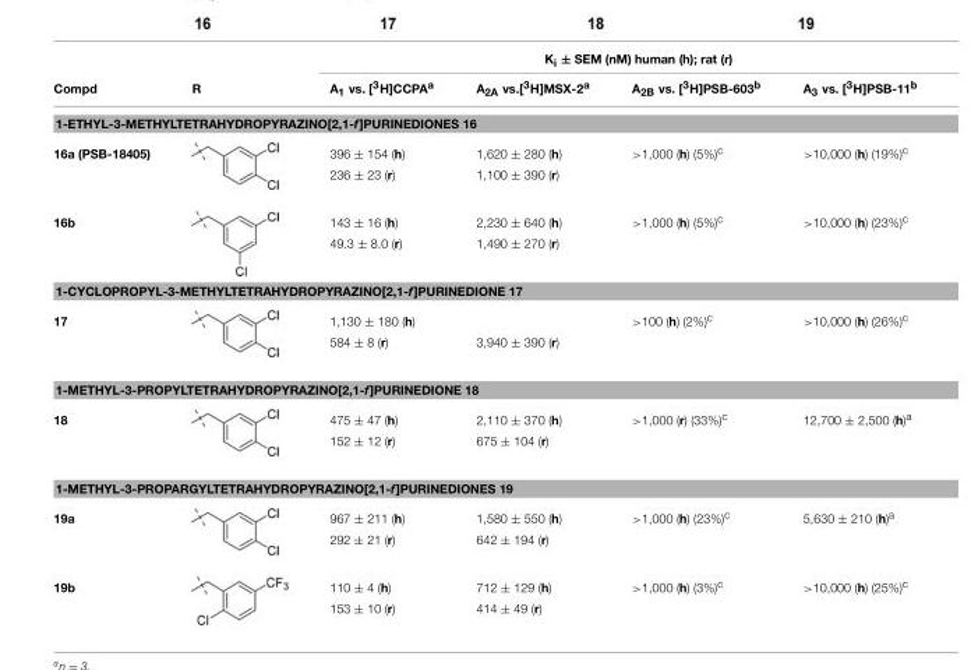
<table><thead><tr><td rowspan="2">Compd</td><td rowspan="2">R</td><td colspan="4">K<sub>i</sub> ± SEM (nM) human (h); rat (r)</td></tr><tr><td>A<sub>1</sub> vs. [<sup>3</sup>H]CCPA<sup>a</sup></td><td>A<sub>2A</sub> vs.[<sup>3</sup>H]MSX-2<sup>a</sup></td><td>A<sub>2B</sub> vs. [<sup>3</sup>H]PSB-603<sup>b</sup></td><td>A<sub>3</sub> vs. [<sup>3</sup>H]PSB-11<sup>b</sup></td></tr></thead><tbody><tr><td colspan="6">1-ETHYL-3-METHYLTETRAHYDROPYRAZINO[2,1-f]PURINEDIONES 16</td></tr><tr><td rowspan="2">16a (PSB-18405)</td><td></td><td>396 ± 154 (h)</td><td>1,620 ± 280 (h)</td><td>&gt;1,000 (h) (5%)<sup>c</sup></td><td>&gt;10,000 (h) (19%)<sup>c</sup></td></tr><tr><td></td><td>236 ± 23 (r)</td><td>1,100 ± 390 (r)</td><td></td><td></td></tr><tr><td rowspan="2">16b</td><td></td><td>143 ± 16 (h)</td><td>2,230 ± 640 (h)</td><td>&gt;1,000 (h) (5%)<sup>c</sup></td><td>&gt;10,000 (h) (23%)<sup>c</sup></td></tr><tr><td></td><td>49.3 ± 8.0 (r)</td><td>1,490 ± 270 (r)</td><td></td><td></td></tr><tr><td colspan="6">1-CYCLOPROPYL-3-METHYLTETRAHYDROPYRAZINO[2,1-f]PURINEDIONE 17</td></tr><tr><td rowspan="2">17</td><td></td><td>1,130 ± 180 (h)</td><td></td><td>&gt;100 (h) (2%)<sup>c</sup></td><td>&gt;10,000 (h) (26%)<sup>c</sup></td></tr><tr><td></td><td>584 ± 8 (r)</td><td>3,940 ± 390 (r)</td><td></td><td></td></tr><tr><td colspan="6">1-METHYL-3-PROPYLTETRAHYDROPYRAZINO[2,1-f]PURINEDIONE 18</td></tr><tr><td rowspan="2">18</td><td></td><td>475 ± 47 (h)</td><td>2,110 ± 370 (h)</td><td>&gt;1,000 (r) (33%)<sup>c</sup></td><td>12,700 ± 2,500 (h)<sup>a</sup></td></tr><tr><td></td><td>152 ± 12 (r)</td><td>675 ± 104 (r)</td><td></td><td></td></tr><tr><td colspan="6">1-METHYL-3-PROPARGYLTETRAHYDROPYRAZINO[2,1-f]PURINEDIONES 19</td></tr><tr><td rowspan="2">19a</td><td></td><td>967 ± 211 (h)</td><td>1,580 ± 550 (h)</td><td>&gt;1,000 (h) (23%)<sup>c</sup></td><td>5,630 ± 210 (h)<sup>a</sup></td></tr><tr><td></td><td>292 ± 21 (r)</td><td>642 ± 194 (r)</td><td></td><td></td></tr><tr><td rowspan="2">19b</td><td></td><td>110 ± 4 (h)</td><td>712 ± 129 (h)</td><td>&gt;1,000 (h) (3%)<sup>c</sup></td><td>&gt;10,000 (h) (25%)<sup>c</sup></td></tr><tr><td></td><td>153 ± 10 (r)</td><td>414 ± 49 (r)</td><td></td><td></td></tr></tbody></table>